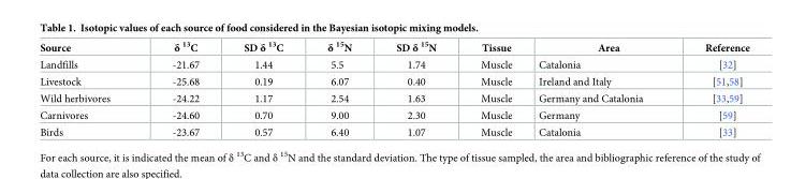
<table><thead><tr><td>Source</td><td>δ <sup>13</sup>C</td><td>SD δ <sup>13</sup>C</td><td>δ <sup>15</sup>N</td><td>SD δ <sup>15</sup>N</td><td>Tissue</td><td>Area</td><td>Reference</td></tr></thead><tbody><tr><td>Landfills</td><td>-21.67</td><td>1.44</td><td>5.5</td><td>1.74</td><td>Muscle</td><td>Catalonia</td><td>[32]</td></tr><tr><td>Livestock</td><td>-25.68</td><td>0.19</td><td>6.07</td><td>0.40</td><td>Muscle</td><td>Ireland and Italy</td><td>[51,58]</td></tr><tr><td>Wild herbivores</td><td>-24.22</td><td>1.17</td><td>2.54</td><td>1.63</td><td>Muscle</td><td>Germany and Catalonia</td><td>[33,59]</td></tr><tr><td>Carnivores</td><td>-24.60</td><td>0.70</td><td>9.00</td><td>2.30</td><td>Muscle</td><td>Germany</td><td>[59]</td></tr><tr><td>Birds</td><td>-23.67</td><td>0.57</td><td>6.40</td><td>1.07</td><td>Muscle</td><td>Catalonia</td><td>[33]</td></tr></tbody></table>